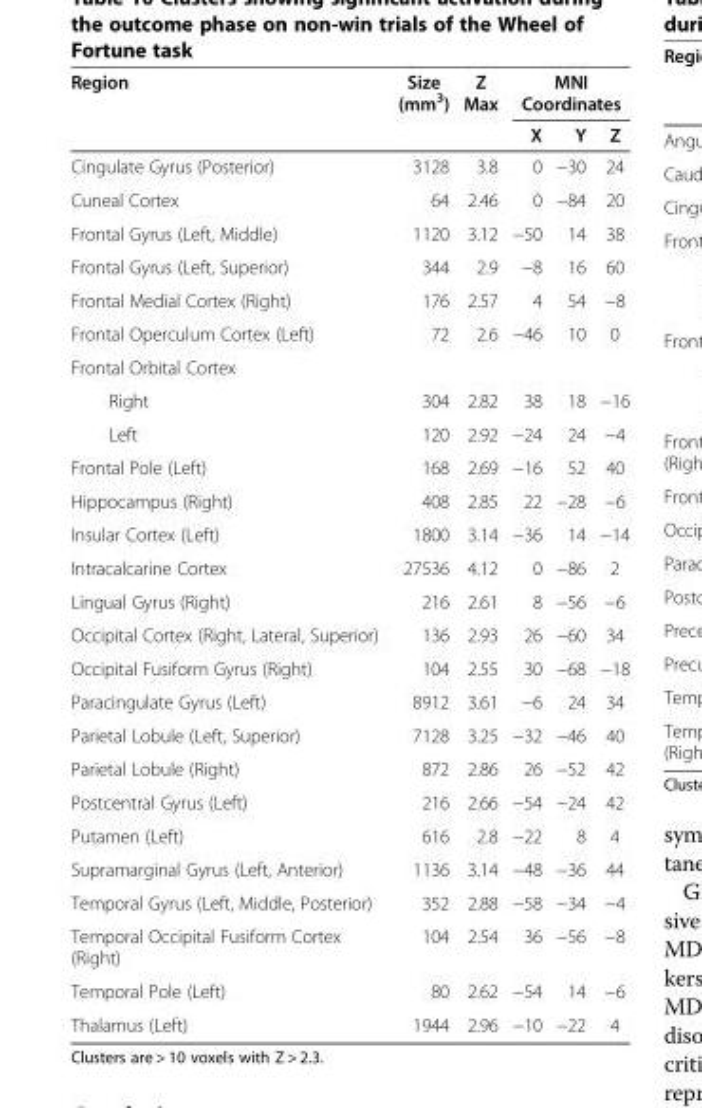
<table><thead><tr><td rowspan="2">Region</td><td rowspan="2">Size (mm<sup>3</sup>)</td><td rowspan="2">Z Max</td><td colspan="3">MNI Coordinates</td></tr><tr><td>X</td><td>Y</td><td>Z</td></tr></thead><tbody><tr><td>Cingulate Gyrus (Posterior)</td><td>3128</td><td>3.8</td><td>0</td><td>−30</td><td>24</td></tr><tr><td>Cuneal Cortex</td><td>64</td><td>2.46</td><td>0</td><td>−84</td><td>20</td></tr><tr><td>Frontal Gyrus (Left, Middle)</td><td>1120</td><td>3.12</td><td>−50</td><td>14</td><td>38</td></tr><tr><td>Frontal Gyrus (Left, Superior)</td><td>344</td><td>2.9</td><td>−8</td><td>16</td><td>60</td></tr><tr><td>Frontal Medial Cortex (Right)</td><td>176</td><td>2.57</td><td>4</td><td>54</td><td>−8</td></tr><tr><td>Frontal Operculum Cortex (Left)</td><td>72</td><td>2.6</td><td>−46</td><td>10</td><td>0</td></tr><tr><td colspan="6">Frontal Orbital Cortex</td></tr><tr><td>Right</td><td>304</td><td>2.82</td><td>38</td><td>18</td><td>−16</td></tr><tr><td>Left</td><td>120</td><td>2.92</td><td>−24</td><td>24</td><td>−4</td></tr><tr><td>Frontal Pole (Left)</td><td>168</td><td>2.69</td><td>−16</td><td>52</td><td>40</td></tr><tr><td>Hippocampus (Right)</td><td>408</td><td>2.85</td><td>22</td><td>−28</td><td>−6</td></tr><tr><td>Insular Cortex (Left)</td><td>1800</td><td>3.14</td><td>−36</td><td>14</td><td>−14</td></tr><tr><td>Intracalcarine Cortex</td><td>27536</td><td>4.12</td><td>0</td><td>−86</td><td>2</td></tr><tr><td>Lingual Gyrus (Right)</td><td>216</td><td>2.61</td><td>8</td><td>−56</td><td>−6</td></tr><tr><td>Occipital Cortex (Right, Lateral, Superior)</td><td>136</td><td>2.93</td><td>26</td><td>−60</td><td>34</td></tr><tr><td>Occipital Fusiform Gyrus (Right)</td><td>104</td><td>2.55</td><td>30</td><td>−68</td><td>−18</td></tr><tr><td>Paracingulate Gyrus (Left)</td><td>8912</td><td>3.61</td><td>−6</td><td>24</td><td>34</td></tr><tr><td>Parietal Lobule (Left, Superior)</td><td>7128</td><td>3.25</td><td>−32</td><td>−46</td><td>40</td></tr><tr><td>Parietal Lobule (Right)</td><td>872</td><td>2.86</td><td>26</td><td>−52</td><td>42</td></tr><tr><td>Postcentral Gyrus (Left)</td><td>216</td><td>2.66</td><td>−54</td><td>−24</td><td>42</td></tr><tr><td>Putamen (Left)</td><td>616</td><td>2.8</td><td>−22</td><td>8</td><td>4</td></tr><tr><td>Supramarginal Gyrus (Left, Anterior)</td><td>1136</td><td>3.14</td><td>−48</td><td>−36</td><td>44</td></tr><tr><td>Temporal Gyrus (Left, Middle, Posterior)</td><td>352</td><td>2.88</td><td>−58</td><td>−34</td><td>−4</td></tr><tr><td>Temporal Occipital Fusiform Cortex (Right)</td><td>104</td><td>2.54</td><td>36</td><td>−56</td><td>−8</td></tr><tr><td>Temporal Pole (Left)</td><td>80</td><td>2.62</td><td>−54</td><td>14</td><td>−6</td></tr><tr><td>Thalamus (Left)</td><td>1944</td><td>2.96</td><td>−10</td><td>−22</td><td>4</td></tr></tbody></table>